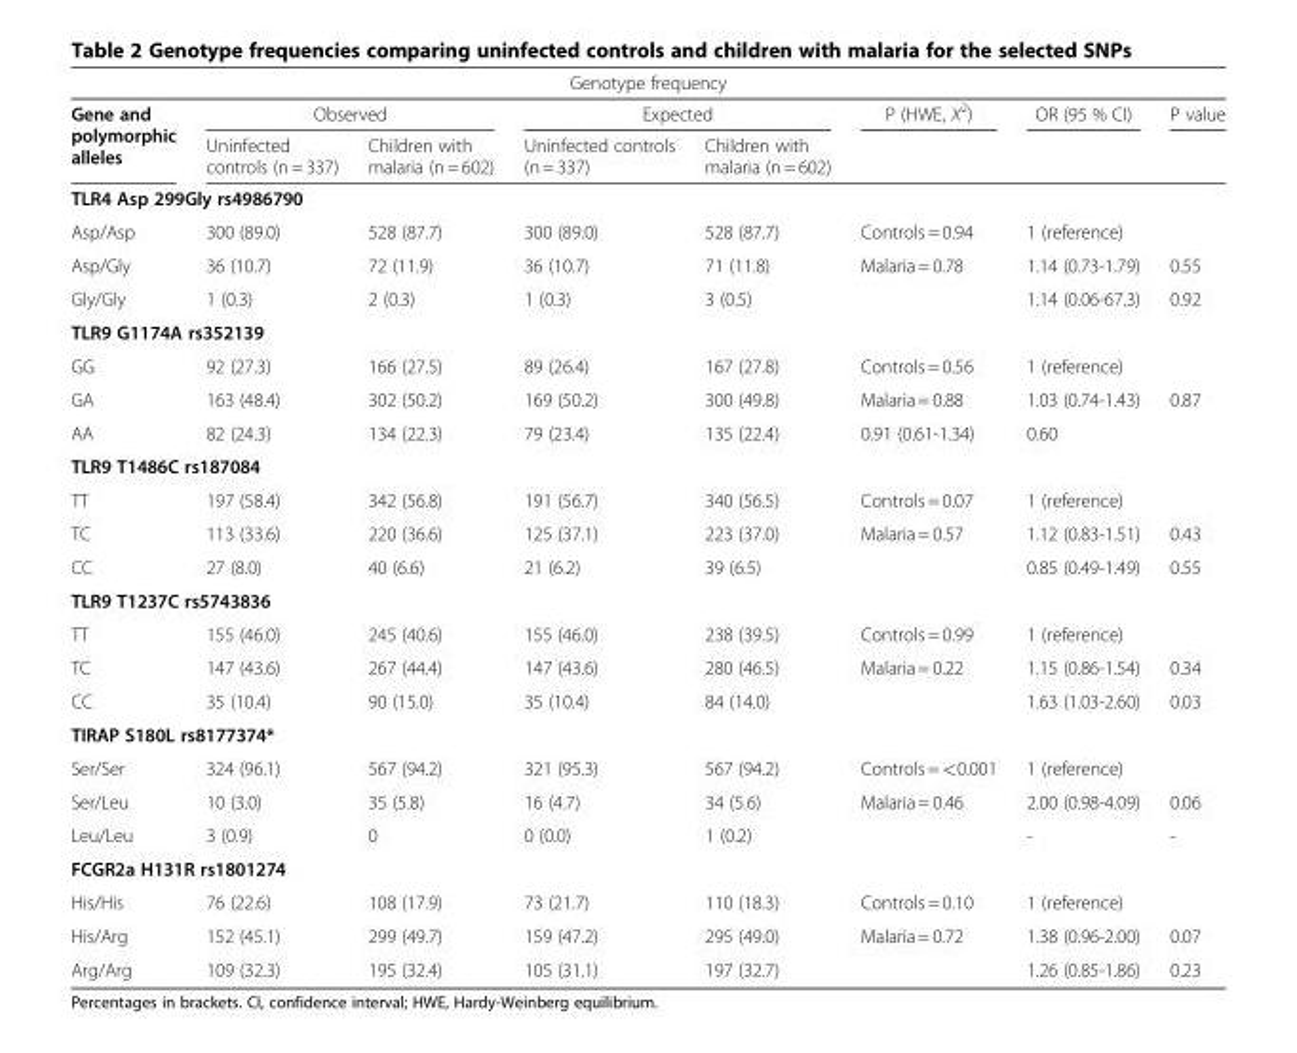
<table><thead><tr><td colspan="8">Genotype frequency</td></tr><tr><td rowspan="2">Gene and polymorphic alleles</td><td colspan="2">Observed</td><td colspan="2">Expected</td><td rowspan="2">P (HWE, X<sup>2</sup>)</td><td rowspan="2">OR (95 % CI)</td><td rowspan="2">P value</td></tr><tr><td>Uninfected controls (n = 337)</td><td>Children with malaria (n = 602)</td><td>Uninfected controls (n = 337)</td><td>Children with malaria (n = 602)</td></tr></thead><tbody><tr><td colspan="8">TLR4 Asp 299Gly rs4986790</td></tr><tr><td>Asp/Asp</td><td>300 (89.0)</td><td>528 (87.7)</td><td>300 (89.0)</td><td>528 (87.7)</td><td>Controls = 0.94</td><td>1 (reference)</td><td></td></tr><tr><td>Asp/Gly</td><td>36 (10.7)</td><td>72 (11.9)</td><td>36 (10.7)</td><td>71 (11.8)</td><td>Malaria = 0.78</td><td>1.14 (0.73-1.79)</td><td>0.55</td></tr><tr><td>Gly/Gly</td><td>1 (0.3)</td><td>2 (0.3)</td><td>1 (0.3)</td><td>3 (0.5)</td><td></td><td>1.14 (0.06-67.3)</td><td>0.92</td></tr><tr><td colspan="8">TLR9 G1174A rs352139</td></tr><tr><td>GG</td><td>92 (27.3)</td><td>166 (27.5)</td><td>89 (26.4)</td><td>167 (27.8)</td><td>Controls = 0.56</td><td>1 (reference)</td><td></td></tr><tr><td>GA</td><td>163 (48.4)</td><td>302 (50.2)</td><td>169 (50.2)</td><td>300 (49.8)</td><td>Malaria = 0.88</td><td>1.03 (0.74-1.43)</td><td>0.87</td></tr><tr><td>AA</td><td>82 (24.3)</td><td>134 (22.3)</td><td>79 (23.4)</td><td>135 (22.4)</td><td>0.91 (0.61-1.34)</td><td>0.60</td><td></td></tr><tr><td colspan="8">TLR9 T1486C rs187084</td></tr><tr><td>TT</td><td>197 (58.4)</td><td>342 (56.8)</td><td>191 (56.7)</td><td>340 (56.5)</td><td>Controls = 0.07</td><td>1 (reference)</td><td></td></tr><tr><td>TC</td><td>113 (33.6)</td><td>220 (36.6)</td><td>125 (37.1)</td><td>223 (37.0)</td><td>Malaria = 0.57</td><td>1.12 (0.83-1.51)</td><td>0.43</td></tr><tr><td>CC</td><td>27 (8.0)</td><td>40 (6.6)</td><td>21 (6.2)</td><td>39 (6.5)</td><td></td><td>0.85 (0.49-1.49)</td><td>0.55</td></tr><tr><td colspan="8">TLR9 T1237C rs5743836</td></tr><tr><td>TT</td><td>155 (46.0)</td><td>245 (40.6)</td><td>155 (46.0)</td><td>238 (39.5)</td><td>Controls = 0.99</td><td>1 (reference)</td><td></td></tr><tr><td>TC</td><td>147 (43.6)</td><td>267 (44.4)</td><td>147 (43.6)</td><td>280 (46.5)</td><td>Malaria = 0.22</td><td>1.15 (0.86-1.54)</td><td>0.34</td></tr><tr><td>CC</td><td>35 (10.4)</td><td>90 (15.0)</td><td>35 (10.4)</td><td>84 (14.0)</td><td></td><td>1.63 (1.03-2.60)</td><td>0.03</td></tr><tr><td colspan="8">TIRAP S180L rs8177374*</td></tr><tr><td>Ser/Ser</td><td>324 (96.1)</td><td>567 (94.2)</td><td>321 (95.3)</td><td>567 (94.2)</td><td>Controls = &lt;0.001</td><td>1 (reference)</td><td></td></tr><tr><td>Ser/Leu</td><td>10 (3.0)</td><td>35 (5.8)</td><td>16 (4.7)</td><td>34 (5.6)</td><td>Malaria = 0.46</td><td>2.00 (0.98-4.09)</td><td>0.06</td></tr><tr><td>Leu/Leu</td><td>3 (0.9)</td><td>0</td><td>0 (0.0)</td><td>1 (0.2)</td><td></td><td>-</td><td>-</td></tr><tr><td colspan="8">FCGR2a H131R rs1801274</td></tr><tr><td>His/His</td><td>76 (22.6)</td><td>108 (17.9)</td><td>73 (21.7)</td><td>110 (18.3)</td><td>Controls = 0.10</td><td>1 (reference)</td><td></td></tr><tr><td>His/Arg</td><td>152 (45.1)</td><td>299 (49.7)</td><td>159 (47.2)</td><td>295 (49.0)</td><td>Malaria = 0.72</td><td>1.38 (0.96-2.00)</td><td>0.07</td></tr><tr><td>Arg/Arg</td><td>109 (32.3)</td><td>195 (32.4)</td><td>105 (31.1)</td><td>197 (32.7)</td><td></td><td>1.26 (0.85-1.86)</td><td>0.23</td></tr></tbody></table>